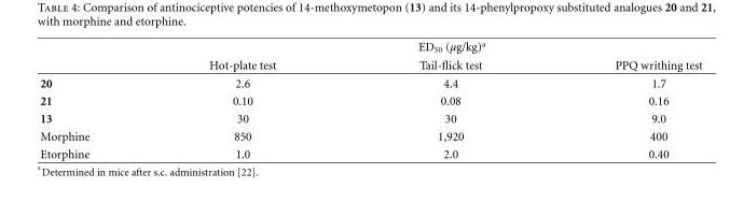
<table><thead><tr><td rowspan="2"></td><td colspan="3">ED<sub>50</sub> (μg/kg)<sup>a</sup></td></tr><tr><td>Hot-plate test</td><td>Tail-flick test</td><td>PPQ writhing test</td></tr></thead><tbody><tr><td>20</td><td>2.6</td><td>4.4</td><td>1.7</td></tr><tr><td>21</td><td>0.10</td><td>0.08</td><td>0.16</td></tr><tr><td>13</td><td>30</td><td>30</td><td>9.0</td></tr><tr><td>Morphine</td><td>850</td><td>1,920</td><td>400</td></tr><tr><td>Etorphine</td><td>1.0</td><td>2.0</td><td>0.40</td></tr></tbody></table>